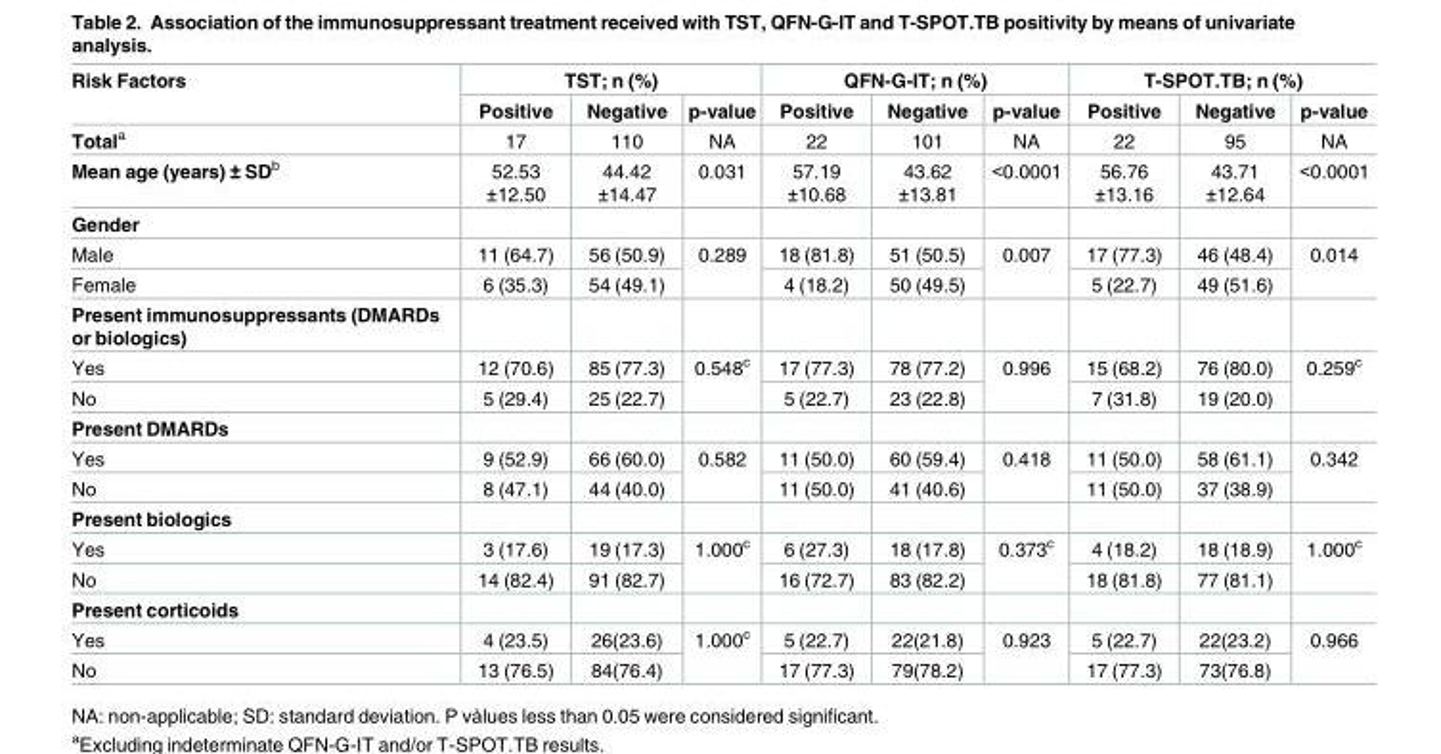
<table><thead><tr><td rowspan="2">Risk Factors</td><td colspan="3">TST; n (%)</td><td colspan="3">QFN-G-IT; n (%)</td><td colspan="3">T-SPOT.TB; n (%)</td></tr><tr><td>Positive</td><td>Negative</td><td>p-value</td><td>Positive</td><td>Negative</td><td>p-value</td><td>Positive</td><td>Negative</td><td>p-value</td></tr></thead><tbody><tr><td>Total<sup>a</sup></td><td>17</td><td>110</td><td>NA</td><td>22</td><td>101</td><td>NA</td><td>22</td><td>95</td><td>NA</td></tr><tr><td>Mean age (years) ± SD<sup>b</sup></td><td>52.53 ±12.50</td><td>44.42 ±14.47</td><td>0.031</td><td>57.19 ±10.68</td><td>43.62 ±13.81</td><td>&lt;0.0001</td><td>56.76 ±13.16</td><td>43.71 ±12.64</td><td>&lt;0.0001</td></tr><tr><td colspan="10">Gender</td></tr><tr><td>Male</td><td>11 (64.7)</td><td>56 (50.9)</td><td rowspan="2">0.289</td><td>18 (81.8)</td><td>51 (50.5)</td><td rowspan="2">0.007</td><td>17 (77.3)</td><td>46 (48.4)</td><td rowspan="2">0.014</td></tr><tr><td>Female</td><td>6 (35.3)</td><td>54 (49.1)</td><td>4 (18.2)</td><td>50 (49.5)</td><td>5 (22.7)</td><td>49 (51.6)</td></tr><tr><td colspan="10">Present immunosuppressants (DMARDs or biologics)</td></tr><tr><td>Yes</td><td>12 (70.6)</td><td>85 (77.3)</td><td rowspan="2">0.548<sup>c</sup></td><td>17 (77.3)</td><td>78 (77.2)</td><td rowspan="2">0.996</td><td>15 (68.2)</td><td>76 (80.0)</td><td rowspan="2">0.259<sup>c</sup></td></tr><tr><td>No</td><td>5 (29.4)</td><td>25 (22.7)</td><td>5 (22.7)</td><td>23 (22.8)</td><td>7 (31.8)</td><td>19 (20.0)</td></tr><tr><td colspan="10">Present DMARDs</td></tr><tr><td>Yes</td><td>9 (52.9)</td><td>66 (60.0)</td><td rowspan="2">0.582</td><td>11 (50.0)</td><td>60 (59.4)</td><td rowspan="2">0.418</td><td>11 (50.0)</td><td>58 (61.1)</td><td rowspan="2">0.342</td></tr><tr><td>No</td><td>8 (47.1)</td><td>44 (40.0)</td><td>11 (50.0)</td><td>41 (40.6)</td><td>11 (50.0)</td><td>37 (38.9)</td></tr><tr><td colspan="10">Present biologics</td></tr><tr><td>Yes</td><td>3 (17.6)</td><td>19 (17.3)</td><td rowspan="2">1.000<sup>c</sup></td><td>6 (27.3)</td><td>18 (17.8)</td><td rowspan="2">0.373<sup>c</sup></td><td>4 (18.2)</td><td>18 (18.9)</td><td rowspan="2">1.000<sup>c</sup></td></tr><tr><td>No</td><td>14 (82.4)</td><td>91 (82.7)</td><td>16 (72.7)</td><td>83 (82.2)</td><td>18 (81.8)</td><td>77 (81.1)</td></tr><tr><td colspan="10">Present corticoids</td></tr><tr><td>Yes</td><td>4 (23.5)</td><td>26(23.6)</td><td rowspan="2">1.000<sup>c</sup></td><td>5 (22.7)</td><td>22(21.8)</td><td rowspan="2">0.923</td><td>5 (22.7)</td><td>22(23.2)</td><td rowspan="2">0.966</td></tr><tr><td>No</td><td>13 (76.5)</td><td>84(76.4)</td><td>17 (77.3)</td><td>79(78.2)</td><td>17 (77.3)</td><td>73(76.8)</td></tr></tbody></table>